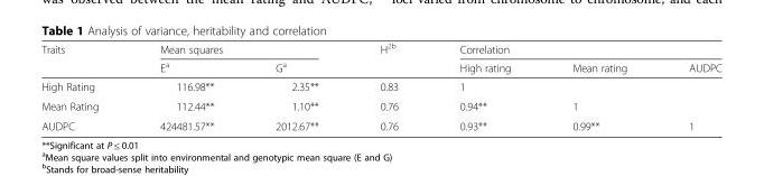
<table><thead><tr><td rowspan="2">Traits</td><td colspan="2">Mean squares</td><td rowspan="2">H<sup>2b</sup></td><td colspan="3">Correlation</td></tr><tr><td>E<sup>a</sup></td><td>G<sup>a</sup></td><td>High rating</td><td>Mean rating</td><td>AUDPC</td></tr></thead><tbody><tr><td>High Rating</td><td>116.98**</td><td>2.35**</td><td>0.83</td><td>1</td><td></td><td></td></tr><tr><td>Mean Rating</td><td>112.44**</td><td>1.10**</td><td>0.76</td><td>0.94**</td><td>1</td><td></td></tr><tr><td>AUDPC</td><td>424481.57**</td><td>2012.67**</td><td>0.76</td><td>0.93**</td><td>0.99**</td><td>1</td></tr></tbody></table>